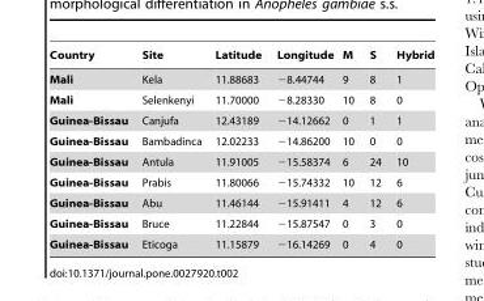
<table><thead><tr><td>Country</td><td>Site</td><td>Latitude</td><td>Longitude</td><td>M</td><td>S</td><td>Hybrid</td></tr></thead><tbody><tr><td>Mali</td><td>Kela</td><td>11.88683</td><td>−8.44744</td><td>9</td><td>8</td><td>1</td></tr><tr><td>Mali</td><td>Selenkenyi</td><td>11.70000</td><td>−8.28330</td><td>10</td><td>8</td><td>0</td></tr><tr><td>Guinea-Bissau</td><td>Canjufa</td><td>12.43189</td><td>−14.12662</td><td>0</td><td>1</td><td>1</td></tr><tr><td>Guinea-Bissau</td><td>Bambadinca</td><td>12.02233</td><td>−14.86200</td><td>10</td><td>0</td><td>0</td></tr><tr><td>Guinea-Bissau</td><td>Antula</td><td>11.91005</td><td>−15.58374</td><td>6</td><td>24</td><td>10</td></tr><tr><td>Guinea-Bissau</td><td>Prabis</td><td>11.80066</td><td>−15.74332</td><td>10</td><td>12</td><td>6</td></tr><tr><td>Guinea-Bissau</td><td>Abu</td><td>11.46144</td><td>−15.91411</td><td>4</td><td>12</td><td>6</td></tr><tr><td>Guinea-Bissau</td><td>Bruce</td><td>11.22844</td><td>−15.87547</td><td>0</td><td>3</td><td>0</td></tr><tr><td>Guinea-Bissau</td><td>Eticoga</td><td>11.15879</td><td>−16.14269</td><td>0</td><td>4</td><td>0</td></tr></tbody></table>